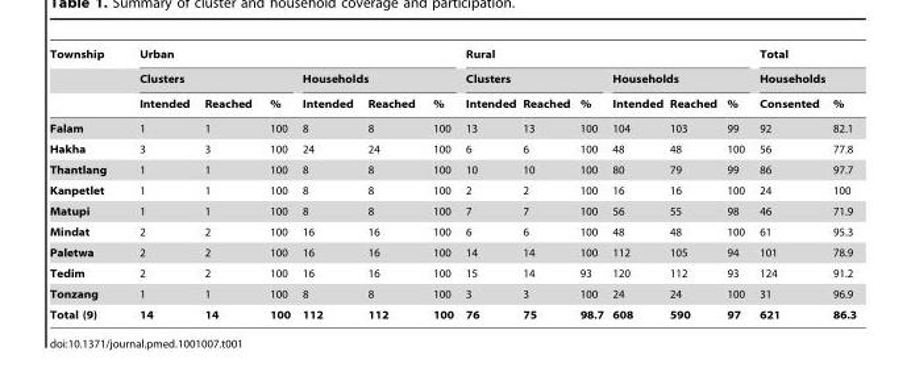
<table><thead><tr><td rowspan="3">Township</td><td colspan="6">Urban</td><td colspan="6">Rural</td><td rowspan="2" colspan="2">Total Households</td></tr><tr><td colspan="3">Clusters</td><td colspan="3">Households</td><td colspan="3">Clusters</td><td colspan="3">Households</td></tr><tr><td>Intended</td><td>Reached</td><td>%</td><td>Intended</td><td>Reached</td><td>%</td><td>Intended</td><td>Reached</td><td>%</td><td>Intended</td><td>Reached</td><td>%</td><td>Consented</td><td>%</td></tr></thead><tbody><tr><td>Falam</td><td>1</td><td>1</td><td>100</td><td>8</td><td>8</td><td>100</td><td>13</td><td>13</td><td>100</td><td>104</td><td>103</td><td>99</td><td>92</td><td>82.1</td></tr><tr><td>Hakha</td><td>3</td><td>3</td><td>100</td><td>24</td><td>24</td><td>100</td><td>6</td><td>6</td><td>100</td><td>48</td><td>48</td><td>100</td><td>56</td><td>77.8</td></tr><tr><td>Thantlang</td><td>1</td><td>1</td><td>100</td><td>8</td><td>8</td><td>100</td><td>10</td><td>10</td><td>100</td><td>80</td><td>79</td><td>99</td><td>86</td><td>97.7</td></tr><tr><td>Kanpetlet</td><td>1</td><td>1</td><td>100</td><td>8</td><td>8</td><td>100</td><td>2</td><td>2</td><td>100</td><td>16</td><td>16</td><td>100</td><td>24</td><td>100</td></tr><tr><td>Matupi</td><td>1</td><td>1</td><td>100</td><td>8</td><td>8</td><td>100</td><td>7</td><td>7</td><td>100</td><td>56</td><td>55</td><td>98</td><td>46</td><td>71.9</td></tr><tr><td>Mindat</td><td>2</td><td>2</td><td>100</td><td>16</td><td>16</td><td>100</td><td>6</td><td>6</td><td>100</td><td>48</td><td>48</td><td>100</td><td>61</td><td>95.3</td></tr><tr><td>Paletwa</td><td>2</td><td>2</td><td>100</td><td>16</td><td>16</td><td>100</td><td>14</td><td>14</td><td>100</td><td>112</td><td>105</td><td>94</td><td>101</td><td>78.9</td></tr><tr><td>Tedim</td><td>2</td><td>2</td><td>100</td><td>16</td><td>16</td><td>100</td><td>15</td><td>14</td><td>93</td><td>120</td><td>112</td><td>93</td><td>124</td><td>91.2</td></tr><tr><td>Tonzang</td><td>1</td><td>1</td><td>100</td><td>8</td><td>8</td><td>100</td><td>3</td><td>3</td><td>100</td><td>24</td><td>24</td><td>100</td><td>31</td><td>96.9</td></tr><tr><td>Total (9)</td><td>14</td><td>14</td><td>100</td><td>112</td><td>112</td><td>100</td><td>76</td><td>75</td><td>98.7</td><td>608</td><td>590</td><td>97</td><td>621</td><td>86.3</td></tr></tbody></table>